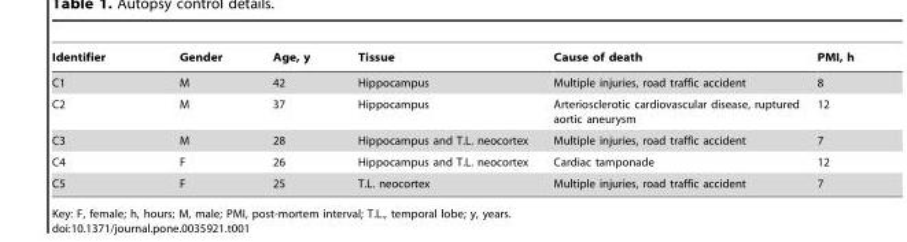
<table><thead><tr><td>Identifier</td><td>Gender</td><td>Age, y</td><td>Tissue</td><td>Cause of death</td><td>PMI, h</td></tr></thead><tbody><tr><td>C1</td><td>M</td><td>42</td><td>Hippocampus</td><td>Multiple injuries, road traffic accident</td><td>8</td></tr><tr><td>C2</td><td>M</td><td>37</td><td>Hippocampus</td><td>Arteriosclerotic cardiovascular disease, ruptured aortic aneurysm</td><td>12</td></tr><tr><td>C3</td><td>M</td><td>28</td><td>Hippocampus and T.L. neocortex</td><td>Multiple injuries, road traffic accident</td><td>7</td></tr><tr><td>C4</td><td>F</td><td>26</td><td>Hippocampus and T.L. neocortex</td><td>Cardiac tamponade</td><td>12</td></tr><tr><td>C5</td><td>F</td><td>25</td><td>T.L. neocortex</td><td>Multiple injuries, road traffic accident</td><td>7</td></tr></tbody></table>